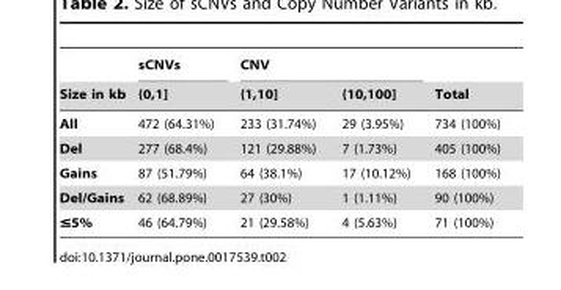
<table><thead><tr><td rowspan="2">Size in kb</td><td rowspan="2">sCNVs (0,1]</td><td colspan="2">CNV</td><td rowspan="2">Total</td></tr><tr><td>(1,10]</td><td>(10,100]</td></tr></thead><tbody><tr><td>All</td><td>472 (64.31%)</td><td>233 (31.74%)</td><td>29 (3.95%)</td><td>734 (100%)</td></tr><tr><td>Del</td><td>277 (68.4%)</td><td>121 (29.88%)</td><td>7 (1.73%)</td><td>405 (100%)</td></tr><tr><td>Gains</td><td>87 (51.79%)</td><td>64 (38.1%)</td><td>17 (10.12%)</td><td>168 (100%)</td></tr><tr><td>Del/Gains</td><td>62 (68.89%)</td><td>27 (30%)</td><td>1 (1.11%)</td><td>90 (100%)</td></tr><tr><td>≤5%</td><td>46 (64.79%)</td><td>21 (29.58%)</td><td>4 (5.63%)</td><td>71 (100%)</td></tr></tbody></table>